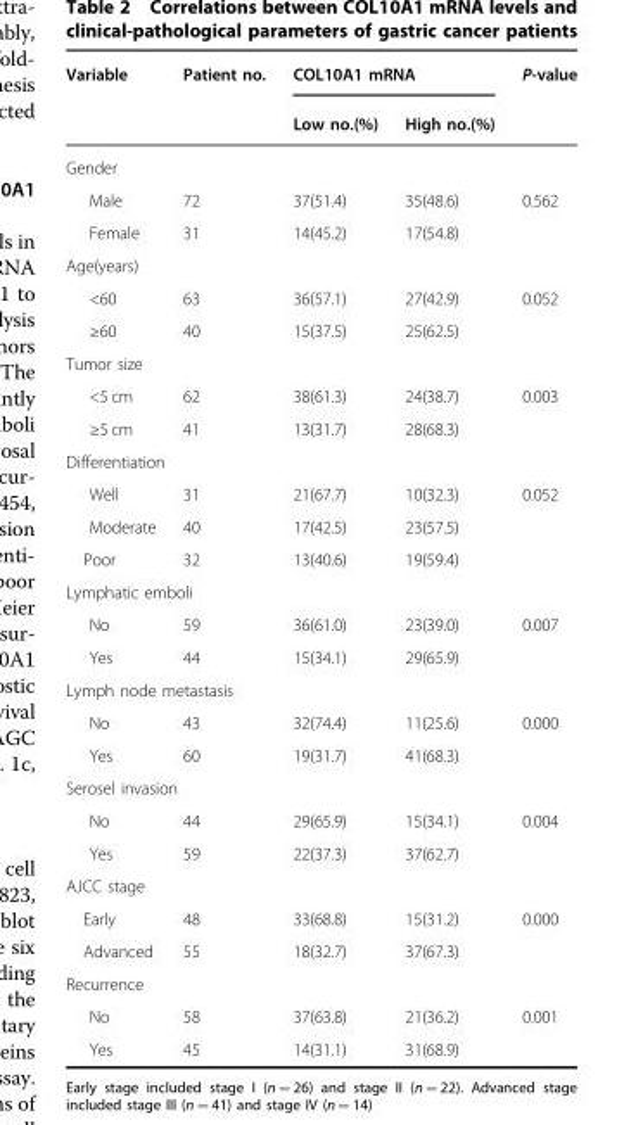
<table><thead><tr><td rowspan="2">Variable</td><td rowspan="2">Patient no.</td><td colspan="2">COL10A1 mRNA</td><td rowspan="2">P-value</td></tr><tr><td>Low no.(%)</td><td>High no.(%)</td></tr></thead><tbody><tr><td colspan="5">Gender</td></tr><tr><td>Male</td><td>72</td><td>37(51.4)</td><td>35(48.6)</td><td rowspan="2">0.562</td></tr><tr><td>Female</td><td>31</td><td>14(45.2)</td><td>17(54.8)</td></tr><tr><td colspan="5">Age(years)</td></tr><tr><td>&lt;60</td><td>63</td><td>36(57.1)</td><td>27(42.9)</td><td rowspan="2">0.052</td></tr><tr><td>≥60</td><td>40</td><td>15(37.5)</td><td>25(62.5)</td></tr><tr><td colspan="5">Tumor size</td></tr><tr><td>&lt;5 cm</td><td>62</td><td>38(61.3)</td><td>24(38.7)</td><td rowspan="2">0.003</td></tr><tr><td>≥5 cm</td><td>41</td><td>13(31.7)</td><td>28(68.3)</td></tr><tr><td colspan="5">Differentiation</td></tr><tr><td>Well</td><td>31</td><td>21(67.7)</td><td>10(32.3)</td><td rowspan="3">0.052</td></tr><tr><td>Moderate</td><td>40</td><td>17(42.5)</td><td>23(57.5)</td></tr><tr><td>Poor</td><td>32</td><td>13(40.6)</td><td>19(59.4)</td></tr><tr><td colspan="5">Lymphatic emboli</td></tr><tr><td>No</td><td>59</td><td>36(61.0)</td><td>23(39.0)</td><td rowspan="2">0.007</td></tr><tr><td>Yes</td><td>44</td><td>15(34.1)</td><td>29(65.9)</td></tr><tr><td colspan="5">Lymph node metastasis</td></tr><tr><td>No</td><td>43</td><td>32(74.4)</td><td>11(25.6)</td><td rowspan="2">0.000</td></tr><tr><td>Yes</td><td>60</td><td>19(31.7)</td><td>41(68.3)</td></tr><tr><td colspan="5">Serosel invasion</td></tr><tr><td>No</td><td>44</td><td>29(65.9)</td><td>15(34.1)</td><td rowspan="2">0.004</td></tr><tr><td>Yes</td><td>59</td><td>22(37.3)</td><td>37(62.7)</td></tr><tr><td colspan="5">AJCC stage</td></tr><tr><td>Early</td><td>48</td><td>33(68.8)</td><td>15(31.2)</td><td rowspan="2">0.000</td></tr><tr><td>Advanced</td><td>55</td><td>18(32.7)</td><td>37(67.3)</td></tr><tr><td colspan="5">Recurrence</td></tr><tr><td>No</td><td>58</td><td>37(63.8)</td><td>21(36.2)</td><td rowspan="2">0.001</td></tr><tr><td>Yes</td><td>45</td><td>14(31.1)</td><td>31(68.9)</td></tr></tbody></table>